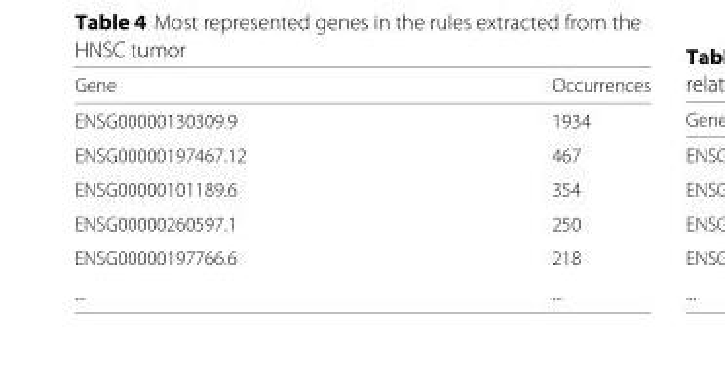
<table><thead><tr><td>Gene</td><td>Occurrences</td></tr></thead><tbody><tr><td>ENSG00000130309.9</td><td>1934</td></tr><tr><td>ENSG00000197467.12</td><td>467</td></tr><tr><td>ENSG00000101189.6</td><td>354</td></tr><tr><td>ENSG00000260597.1</td><td>250</td></tr><tr><td>ENSG00000197766.6</td><td>218</td></tr><tr><td>...</td><td>...</td></tr></tbody></table>